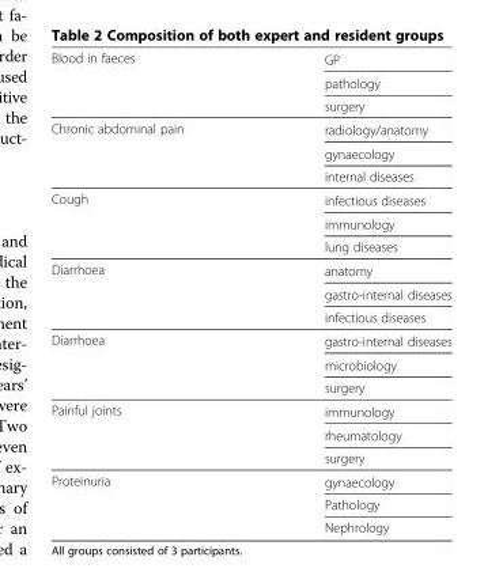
<table><tbody><tr><td rowspan="3">Blood in faeces</td><td>GP</td></tr><tr><td>pathology</td></tr><tr><td>surgery</td></tr><tr><td rowspan="3">Chronic abdominal pain</td><td>radiology/anatomy</td></tr><tr><td>gynaecology</td></tr><tr><td>internal diseases</td></tr><tr><td rowspan="3">Cough</td><td>infectious diseases</td></tr><tr><td>immunology</td></tr><tr><td>lung diseases</td></tr><tr><td rowspan="3">Diarrhoea</td><td>anatomy</td></tr><tr><td>gastro-internal diseases</td></tr><tr><td>infectious diseases</td></tr><tr><td rowspan="3">Diarrhoea</td><td>gastro-internal diseases</td></tr><tr><td>microbiology</td></tr><tr><td>surgery</td></tr><tr><td rowspan="3">Painful joints</td><td>immunology</td></tr><tr><td>rheumatology</td></tr><tr><td>surgery</td></tr><tr><td rowspan="3">Proteinuria</td><td>gynaecology</td></tr><tr><td>Pathology</td></tr><tr><td>Nephrology</td></tr></tbody></table>